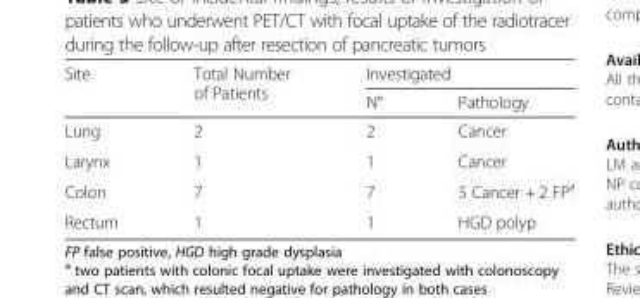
<table><thead><tr><td rowspan="2">Site</td><td rowspan="2">Total Number of Patients</td><td colspan="2">Investigated</td></tr><tr><td>N°</td><td>Pathology</td></tr></thead><tbody><tr><td>Lung</td><td>2</td><td>2</td><td>Cancer</td></tr><tr><td>Larynx</td><td>1</td><td>1</td><td>Cancer</td></tr><tr><td>Colon</td><td>7</td><td>7</td><td>5 Cancer + 2 FP<sup>a</sup></td></tr><tr><td>Rectum</td><td>1</td><td>1</td><td>HGD polyp</td></tr></tbody></table>